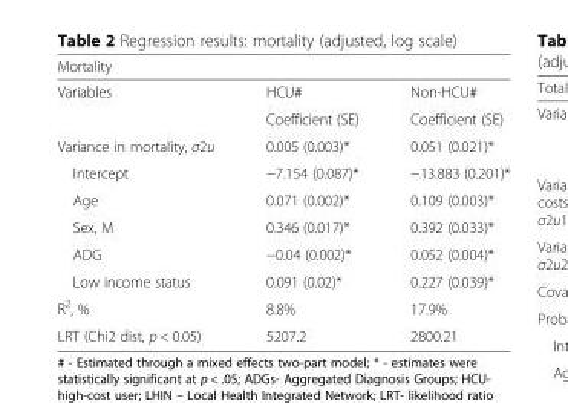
<table><thead><tr><td colspan="3">Mortality</td></tr><tr><td>Variables</td><td>HCU#</td><td>Non-HCU#</td></tr></thead><tbody><tr><td></td><td>Coefficient (SE)</td><td>Coefficient (SE)</td></tr><tr><td>Variance in mortality, σ2u</td><td>0.005 (0.003)*</td><td>0.051 (0.021)*</td></tr><tr><td>Intercept</td><td>−7.154 (0.087)*</td><td>−13.883 (0.201)*</td></tr><tr><td>Age</td><td>0.071 (0.002)*</td><td>0.109 (0.003)*</td></tr><tr><td>Sex, M</td><td>0.346 (0.017)*</td><td>0.392 (0.033)*</td></tr><tr><td>ADG</td><td>−0.04 (0.002)*</td><td>0.052 (0.004)*</td></tr><tr><td>Low income status</td><td>0.091 (0.02)*</td><td>0.227 (0.039)*</td></tr><tr><td>R<sup>2</sup>, %</td><td>8.8%</td><td>17.9%</td></tr><tr><td>LRT (Chi2 dist, p &lt; 0.05)</td><td>5207.2</td><td>2800.21</td></tr></tbody></table>